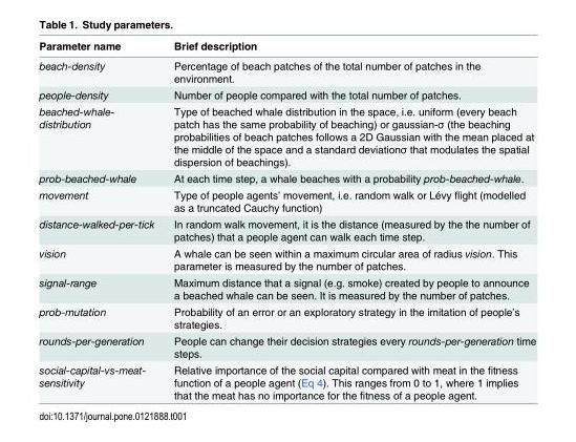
<table><thead><tr><td>Parameter name</td><td>Brief description</td></tr></thead><tbody><tr><td>beach-density</td><td>Percentage of beach patches of the total number of patches in the environment.</td></tr><tr><td>people-density</td><td>Number of people compared with the total number of patches.</td></tr><tr><td>beached-whale- distribution</td><td>Type of beached whale distribution in the space, i.e. uniform (every beach patch has the same probability of beaching) or gaussian-σ (the beaching probabilities of beach patches follows a 2D Gaussian with the mean placed at the middle of the space and a standard deviationσ that modulates the spatial dispersion of beachings).</td></tr><tr><td>prob-beached-whale</td><td>At each time step, a whale beaches with a probability prob-beached-whale.</td></tr><tr><td>movement</td><td>Type of people agents’ movement, i.e. random walk or Lévy flight (modelled as a truncated Cauchy function)</td></tr><tr><td>distance-walked-per-tick</td><td>In random walk movement, it is the distance (measured by the the number of patches) that a people agent can walk each time step.</td></tr><tr><td>vision</td><td>A whale can be seen within a maximum circular area of radius vision. This parameter is measured by the number of patches.</td></tr><tr><td>signal-range</td><td>Maximum distance that a signal (e.g. smoke) created by people to announce a beached whale can be seen. It is measured by the number of patches.</td></tr><tr><td>prob-mutation</td><td>Probability of an error or an exploratory strategy in the imitation of people’s strategies.</td></tr><tr><td>rounds-per-generation</td><td>People can change their decision strategies every rounds-per-generation time steps.</td></tr><tr><td>social-capital-vs-meat- sensitivity</td><td>Relative importance of the social capital compared with meat in the fitness function of a people agent (Eq 4). This ranges from 0 to 1, where 1 implies that the meat has no importance for the fitness of a people agent.</td></tr></tbody></table>